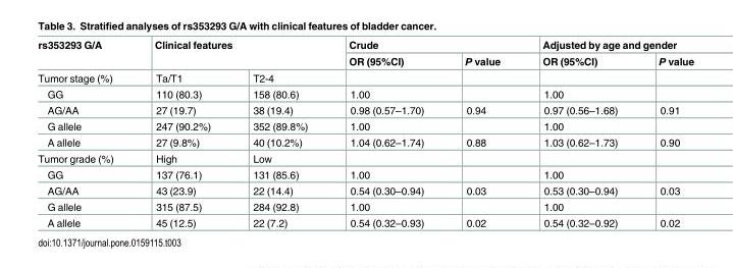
<table><thead><tr><td rowspan="3">rs353293 G/A Tumor stage (%)</td><td rowspan="2" colspan="2">Clinical features</td><td colspan="2">Crude</td><td colspan="2">Adjusted by age and gender</td></tr><tr><td rowspan="2">OR (95%CI)</td><td rowspan="2">P value</td><td rowspan="2">OR (95%CI)</td><td rowspan="2">P value</td></tr><tr><td>Ta/T1</td><td>T2-4</td></tr></thead><tbody><tr><td>GG</td><td>110 (80.3)</td><td>158 (80.6)</td><td>1.00</td><td></td><td>1.00</td><td></td></tr><tr><td>AG/AA</td><td>27 (19.7)</td><td>38 (19.4)</td><td>0.98 (0.57–1.70)</td><td>0.94</td><td>0.97 (0.56–1.68)</td><td>0.91</td></tr><tr><td>G allele</td><td>247 (90.2%)</td><td>352 (89.8%)</td><td>1.00</td><td></td><td>1.00</td><td></td></tr><tr><td>A allele</td><td>27 (9.8%)</td><td>40 (10.2%)</td><td>1.04 (0.62–1.74)</td><td>0.88</td><td>1.03 (0.62–1.73)</td><td>0.90</td></tr><tr><td>Tumor grade (%)</td><td>High</td><td>Low</td><td></td><td></td><td></td><td></td></tr><tr><td>GG</td><td>137 (76.1)</td><td>131 (85.6)</td><td>1.00</td><td></td><td>1.00</td><td></td></tr><tr><td>AG/AA</td><td>43 (23.9)</td><td>22 (14.4)</td><td>0.54 (0.30–0.94)</td><td>0.03</td><td>0.53 (0.30–0.94)</td><td>0.03</td></tr><tr><td>G allele</td><td>315 (87.5)</td><td>284 (92.8)</td><td>1.00</td><td></td><td>1.00</td><td></td></tr><tr><td>A allele</td><td>45 (12.5)</td><td>22 (7.2)</td><td>0.54 (0.32–0.93)</td><td>0.02</td><td>0.54 (0.32–0.92)</td><td>0.02</td></tr></tbody></table>